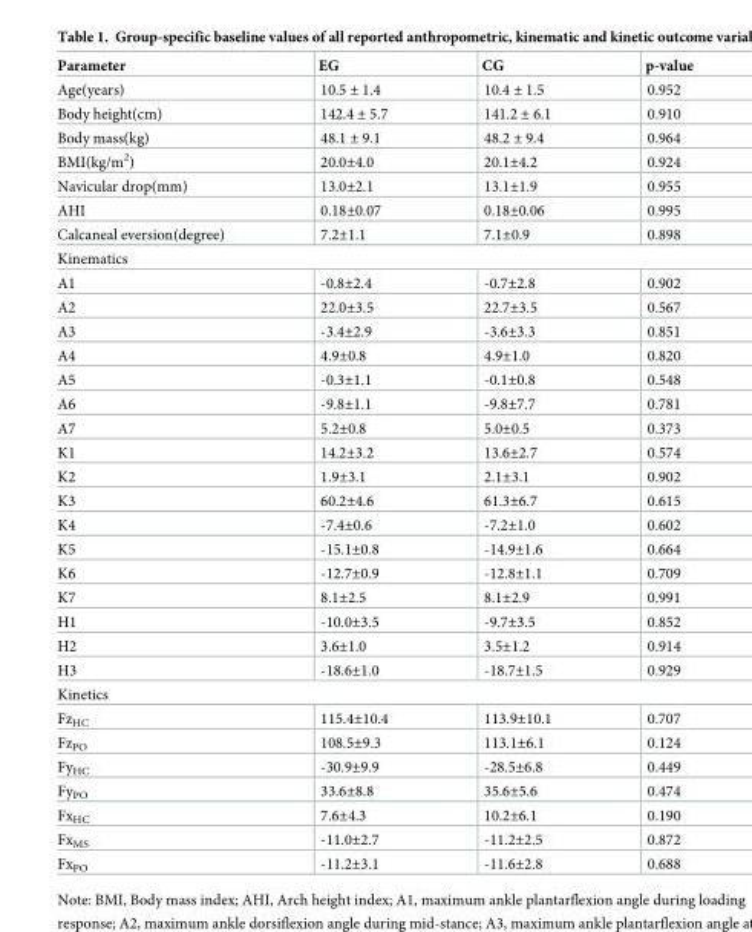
<table><thead><tr><td>Parameter</td><td>EG</td><td>CG</td><td>p-value</td></tr></thead><tbody><tr><td>Age(years)</td><td>10.5 ± 1.4</td><td>10.4 ± 1.5</td><td>0.952</td></tr><tr><td>Body height(cm)</td><td>142.4 ± 5.7</td><td>141.2 ± 6.1</td><td>0.910</td></tr><tr><td>Body mass(kg)</td><td>48.1 ± 9.1</td><td>48.2 ± 9.4</td><td>0.964</td></tr><tr><td>BMI(kg/m<sup>2</sup>)</td><td>20.0±4.0</td><td>20.1±4.2</td><td>0.924</td></tr><tr><td>Navicular drop(mm)</td><td>13.0±2.1</td><td>13.1±1.9</td><td>0.955</td></tr><tr><td>AHI</td><td>0.18±0.07</td><td>0.18±0.06</td><td>0.995</td></tr><tr><td>Calcaneal eversion(degree)</td><td>7.2±1.1</td><td>7.1±0.9</td><td>0.898</td></tr><tr><td colspan="4">Kinematics</td></tr><tr><td>A1</td><td>-0.8±2.4</td><td>-0.7±2.8</td><td>0.902</td></tr><tr><td>A2</td><td>22.0±3.5</td><td>22.7±3.5</td><td>0.567</td></tr><tr><td>A3</td><td>-3.4±2.9</td><td>-3.6±3.3</td><td>0.851</td></tr><tr><td>A4</td><td>4.9±0.8</td><td>4.9±1.0</td><td>0.820</td></tr><tr><td>A5</td><td>-0.3±1.1</td><td>-0.1±0.8</td><td>0.548</td></tr><tr><td>A6</td><td>-9.8±1.1</td><td>-9.8±7.7</td><td>0.781</td></tr><tr><td>A7</td><td>5.2±0.8</td><td>5.0±0.5</td><td>0.373</td></tr><tr><td>K1</td><td>14.2±3.2</td><td>13.6±2.7</td><td>0.574</td></tr><tr><td>K2</td><td>1.9±3.1</td><td>2.1±3.1</td><td>0.902</td></tr><tr><td>K3</td><td>60.2±4.6</td><td>61.3±6.7</td><td>0.615</td></tr><tr><td>K4</td><td>-7.4±0.6</td><td>-7.2±1.0</td><td>0.602</td></tr><tr><td>K5</td><td>-15.1±0.8</td><td>-14.9±1.6</td><td>0.664</td></tr><tr><td>K6</td><td>-12.7±0.9</td><td>-12.8±1.1</td><td>0.709</td></tr><tr><td>K7</td><td>8.1±2.5</td><td>8.1±2.9</td><td>0.991</td></tr><tr><td>H1</td><td>-10.0±3.5</td><td>-9.7±3.5</td><td>0.852</td></tr><tr><td>H2</td><td>3.6±1.0</td><td>3.5±1.2</td><td>0.914</td></tr><tr><td>H3</td><td>-18.6±1.0</td><td>-18.7±1.5</td><td>0.929</td></tr><tr><td colspan="4">Kinetics</td></tr><tr><td>Fz<sub>HC</sub></td><td>115.4±10.4</td><td>113.9±10.1</td><td>0.707</td></tr><tr><td>Fz<sub>PO</sub></td><td>108.5±9.3</td><td>113.1±6.1</td><td>0.124</td></tr><tr><td>Fy<sub>HC</sub></td><td>-30.9±9.9</td><td>-28.5±6.8</td><td>0.449</td></tr><tr><td>Fy<sub>PO</sub></td><td>33.6±8.8</td><td>35.6±5.6</td><td>0.474</td></tr><tr><td>Fx<sub>HC</sub></td><td>7.6±4.3</td><td>10.2±6.1</td><td>0.190</td></tr><tr><td>Fx<sub>MS</sub></td><td>-11.0±2.7</td><td>-11.2±2.5</td><td>0.872</td></tr><tr><td>Fx<sub>PO</sub></td><td>-11.2±3.1</td><td>-11.6±2.8</td><td>0.688</td></tr></tbody></table>